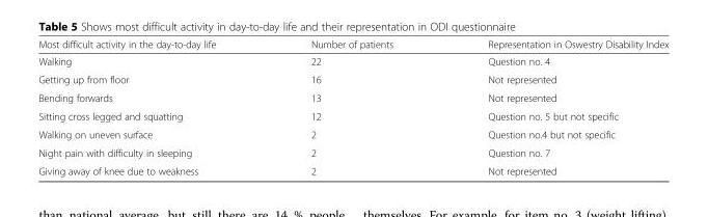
<table><thead><tr><td>Most difficult activity in the day-to-day life</td><td>Number of patients</td><td>Representation in Oswestry Disability Index</td></tr></thead><tbody><tr><td>Walking</td><td>22</td><td>Question no. 4</td></tr><tr><td>Getting up from floor</td><td>16</td><td>Not represented</td></tr><tr><td>Bending forwards</td><td>13</td><td>Not represented</td></tr><tr><td>Sitting cross legged and squatting</td><td>12</td><td>Question no. 5 but not specific</td></tr><tr><td>Walking on uneven surface</td><td>2</td><td>Question no.4 but not specific</td></tr><tr><td>Night pain with difficulty in sleeping</td><td>2</td><td>Question no. 7</td></tr><tr><td>Giving away of knee due to weakness</td><td>2</td><td>Not represented</td></tr></tbody></table>